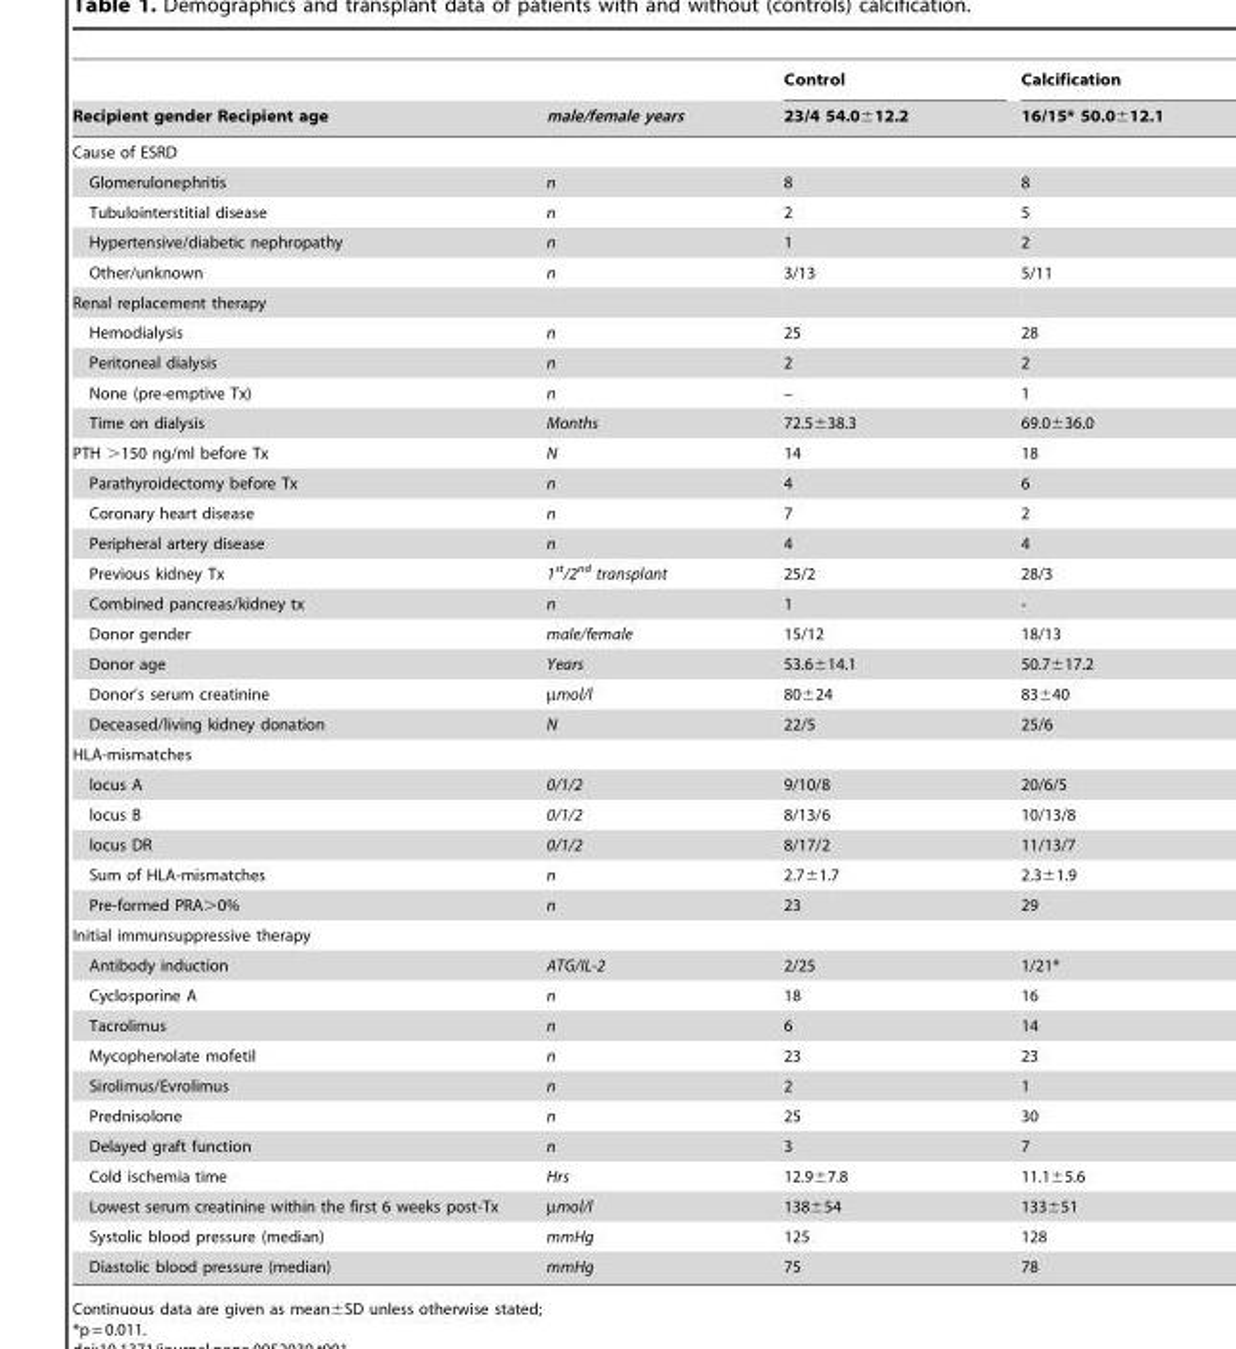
<table><thead><tr><td rowspan="2">Recipient gender Recipient age</td><td rowspan="2">male/female years</td><td rowspan="2">Control 23/4 54.0±12.2</td><td rowspan="2">Calcification 16/15* 50.0±12.1</td></tr><tr></tr></thead><tbody><tr><td colspan="4">Cause of ESRD</td></tr><tr><td>Glomerulonephritis</td><td>n</td><td>8</td><td>8</td></tr><tr><td>Tubulointerstitial disease</td><td>n</td><td>2</td><td>5</td></tr><tr><td>Hypertensive/diabetic nephropathy</td><td>n</td><td>1</td><td>2</td></tr><tr><td>Other/unknown</td><td>n</td><td>3/13</td><td>5/11</td></tr><tr><td colspan="4">Renal replacement therapy</td></tr><tr><td>Hemodialysis</td><td>n</td><td>25</td><td>28</td></tr><tr><td>Peritoneal dialysis</td><td>n</td><td>2</td><td>2</td></tr><tr><td>None (pre-emptive Tx)</td><td>n</td><td>–</td><td>1</td></tr><tr><td>Time on dialysis</td><td>Months</td><td>72.5±38.3</td><td>69.0±36.0</td></tr><tr><td>PTH &gt;150 ng/ml before Tx</td><td>N</td><td>14</td><td>18</td></tr><tr><td>Parathyroidectomy before Tx</td><td>n</td><td>4</td><td>6</td></tr><tr><td>Coronary heart disease</td><td>n</td><td>7</td><td>2</td></tr><tr><td>Peripheral artery disease</td><td>n</td><td>4</td><td>4</td></tr><tr><td>Previous kidney Tx</td><td>1<sup>st</sup>/2<sup>nd</sup> transplant</td><td>25/2</td><td>28/3</td></tr><tr><td>Combined pancreas/kidney tx</td><td>n</td><td>1</td><td>-</td></tr><tr><td>Donor gender</td><td>male/female</td><td>15/12</td><td>18/13</td></tr><tr><td>Donor age</td><td>Years</td><td>53.6±14.1</td><td>50.7±17.2</td></tr><tr><td>Donor’s serum creatinine</td><td>µmol/l</td><td>80±24</td><td>83±40</td></tr><tr><td>Deceased/living kidney donation</td><td>N</td><td>22/5</td><td>25/6</td></tr><tr><td colspan="4">HLA-mismatches</td></tr><tr><td>locus A</td><td>0/1/2</td><td>9/10/8</td><td>20/6/5</td></tr><tr><td>locus B</td><td>0/1/2</td><td>8/13/6</td><td>10/13/8</td></tr><tr><td>locus DR</td><td>0/1/2</td><td>8/17/2</td><td>11/13/7</td></tr><tr><td>Sum of HLA-mismatches</td><td>n</td><td>2.7±1.7</td><td>2.3±1.9</td></tr><tr><td>Pre-formed PRA&gt;0%</td><td>n</td><td>23</td><td>29</td></tr><tr><td colspan="4">Initial immunsuppressive therapy</td></tr><tr><td>Antibody induction</td><td>ATG/IL-2</td><td>2/25</td><td>1/21*</td></tr><tr><td>Cyclosporine A</td><td>n</td><td>18</td><td>16</td></tr><tr><td>Tacrolimus</td><td>n</td><td>6</td><td>14</td></tr><tr><td>Mycophenolate mofetil</td><td>n</td><td>23</td><td>23</td></tr><tr><td>Sirolimus/Evrolimus</td><td>n</td><td>2</td><td>1</td></tr><tr><td>Prednisolone</td><td>n</td><td>25</td><td>30</td></tr><tr><td>Delayed graft function</td><td>n</td><td>3</td><td>7</td></tr><tr><td>Cold ischemia time</td><td>Hrs</td><td>12.9±7.8</td><td>11.1±5.6</td></tr><tr><td>Lowest serum creatinine within the first 6 weeks post-Tx</td><td>µmol/l</td><td>138±54</td><td>133±51</td></tr><tr><td>Systolic blood pressure (median)</td><td>mmHg</td><td>125</td><td>128</td></tr><tr><td>Diastolic blood pressure (median)</td><td>mmHg</td><td>75</td><td>78</td></tr></tbody></table>